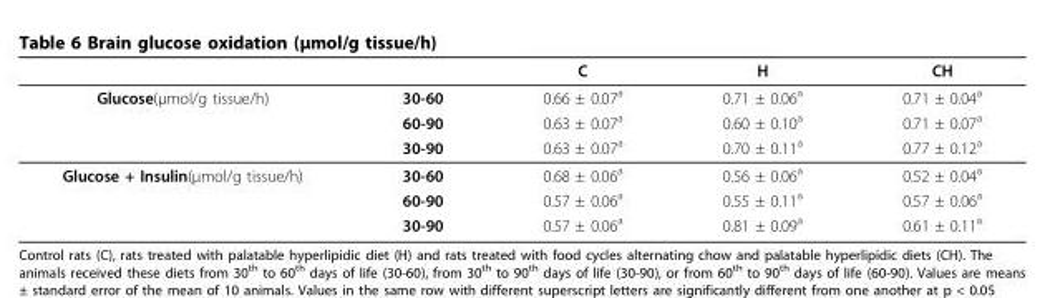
<table><thead><tr><td></td><td></td><td>C</td><td>H</td><td>CH</td></tr></thead><tbody><tr><td rowspan="3">Glucose(μmol/g tissue/h)</td><td>30-60</td><td>0.66 ± 0.07<sup>a</sup></td><td>0.71 ± 0.06<sup>a</sup></td><td>0.71 ± 0.04<sup>a</sup></td></tr><tr><td>60-90</td><td>0.63 ± 0.07<sup>a</sup></td><td>0.60 ± 0.10<sup>a</sup></td><td>0.71 ± 0.07<sup>a</sup></td></tr><tr><td>30-90</td><td>0.63 ± 0.07<sup>a</sup></td><td>0.70 ± 0.11<sup>a</sup></td><td>0.77 ± 0.12<sup>a</sup></td></tr><tr><td rowspan="3">Glucose + Insulin(μmol/g tissue/h)</td><td>30-60</td><td>0.68 ± 0.06<sup>a</sup></td><td>0.56 ± 0.06<sup>a</sup></td><td>0.52 ± 0.04<sup>a</sup></td></tr><tr><td>60-90</td><td>0.57 ± 0.06<sup>a</sup></td><td>0.55 ± 0.11<sup>a</sup></td><td>0.57 ± 0.06<sup>a</sup></td></tr><tr><td>30-90</td><td>0.57 ± 0.06<sup>a</sup></td><td>0.81 ± 0.09<sup>a</sup></td><td>0.61 ± 0.11<sup>a</sup></td></tr></tbody></table>